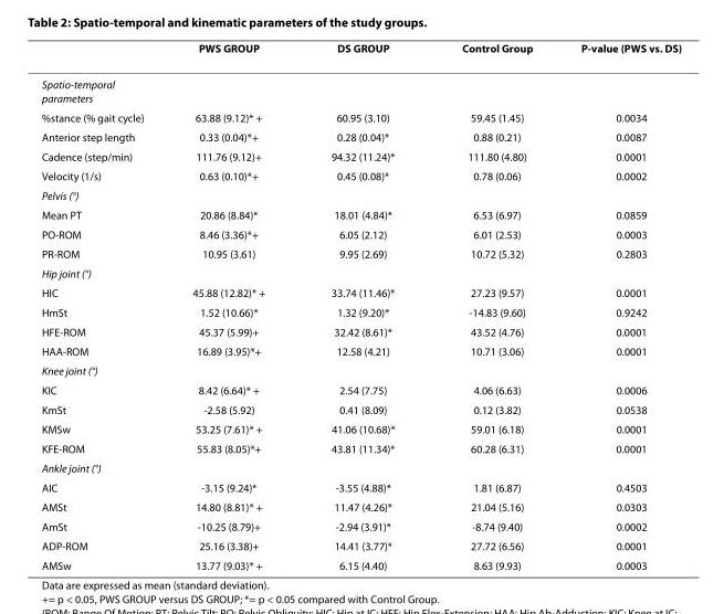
<table><thead><tr><td></td><td>PWS GROUP</td><td>DS GROUP</td><td>Control Group</td><td>P-value (PWS vs. DS)</td></tr></thead><tbody><tr><td colspan="5">Spatio-temporal parameters</td></tr><tr><td>%stance (% gait cycle)</td><td>63.88 (9.12)* +</td><td>60.95 (3.10)</td><td>59.45 (1.45)</td><td>0.0034</td></tr><tr><td>Anterior step length</td><td>0.33 (0.04)*+</td><td>0.28 (0.04)*</td><td>0.88 (0.21)</td><td>0.0087</td></tr><tr><td>Cadence (step/min)</td><td>111.76 (9.12)+</td><td>94.32 (11.24)*</td><td>111.80 (4.80)</td><td>0.0001</td></tr><tr><td>Velocity (1/s)</td><td>0.63 (0.10)*+</td><td>0.45 (0.08)*</td><td>0.78 (0.06)</td><td>0.0002</td></tr><tr><td colspan="5">Pelvis (°)</td></tr><tr><td>Mean PT</td><td>20.86 (8.84)*</td><td>18.01 (4.84)*</td><td>6.53 (6.97)</td><td>0.0859</td></tr><tr><td>PO-ROM</td><td>8.46 (3.36)*+</td><td>6.05 (2.12)</td><td>6.01 (2.53)</td><td>0.0003</td></tr><tr><td>PR-ROM</td><td>10.95 (3.61)</td><td>9.95 (2.69)</td><td>10.72 (5.32)</td><td>0.2803</td></tr><tr><td colspan="5">Hip joint (°)</td></tr><tr><td>HIC</td><td>45.88 (12.82)* +</td><td>33.74 (11.46)*</td><td>27.23 (9.57)</td><td>0.0001</td></tr><tr><td>HmSt</td><td>1.52 (10.66)*</td><td>1.32 (9.20)*</td><td>-14.83 (9.60)</td><td>0.9242</td></tr><tr><td>HFE-ROM</td><td>45.37 (5.99)+</td><td>32.42 (8.61)*</td><td>43.52 (4.76)</td><td>0.0001</td></tr><tr><td>HAA-ROM</td><td>16.89 (3.95)*+</td><td>12.58 (4.21)</td><td>10.71 (3.06)</td><td>0.0001</td></tr><tr><td colspan="5">Knee joint (°)</td></tr><tr><td>KIC</td><td>8.42 (6.64)* +</td><td>2.54 (7.75)</td><td>4.06 (6.63)</td><td>0.0006</td></tr><tr><td>KmSt</td><td>-2.58 (5.92)</td><td>0.41 (8.09)</td><td>0.12 (3.82)</td><td>0.0538</td></tr><tr><td>KMSw</td><td>53.25 (7.61)* +</td><td>41.06 (10.68)*</td><td>59.01 (6.18)</td><td>0.0001</td></tr><tr><td>KFE-ROM</td><td>55.83 (8.05)*+</td><td>43.81 (11.34)*</td><td>60.28 (6.31)</td><td>0.0001</td></tr><tr><td colspan="5">Ankle joint (°)</td></tr><tr><td>AIC</td><td>-3.15 (9.24)*</td><td>-3.55 (4.88)*</td><td>1.81 (6.87)</td><td>0.4503</td></tr><tr><td>AMSt</td><td>14.80 (8.81)* +</td><td>11.47 (4.26)*</td><td>21.04 (5.16)</td><td>0.0303</td></tr><tr><td>AmSt</td><td>-10.25 (8.79)+</td><td>-2.94 (3.91)*</td><td>-8.74 (9.40)</td><td>0.0002</td></tr><tr><td>ADP-ROM</td><td>25.16 (3.38)+</td><td>14.41 (3.77)*</td><td>27.72 (6.56)</td><td>0.0001</td></tr><tr><td>AMSw</td><td>13.77 (9.03)* +</td><td>6.15 (4.40)</td><td>8.63 (9.93)</td><td>0.0003</td></tr></tbody></table>